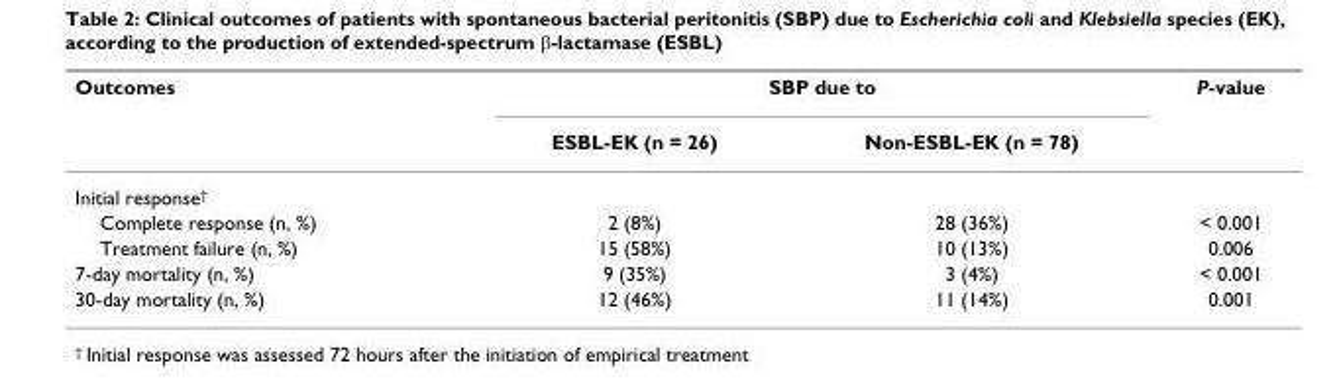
<table><thead><tr><td rowspan="2">Outcomes</td><td colspan="2">SBP due to</td><td rowspan="2">P-value</td></tr><tr><td>ESBL-EK (n = 26)</td><td>Non-ESBL-EK (n = 78)</td></tr></thead><tbody><tr><td colspan="4">Initial response<sup>†</sup></td></tr><tr><td>Complete response (n, %)</td><td>2 (8%)</td><td>28 (36%)</td><td>&lt; 0.001</td></tr><tr><td>Treatment failure (n, %)</td><td>15 (58%)</td><td>10 (13%)</td><td>0.006</td></tr><tr><td>7-day mortality (n, %)</td><td>9 (35%)</td><td>3 (4%)</td><td>&lt; 0.001</td></tr><tr><td>30-day mortality (n, %)</td><td>12 (46%)</td><td>11 (14%)</td><td>0.001</td></tr></tbody></table>